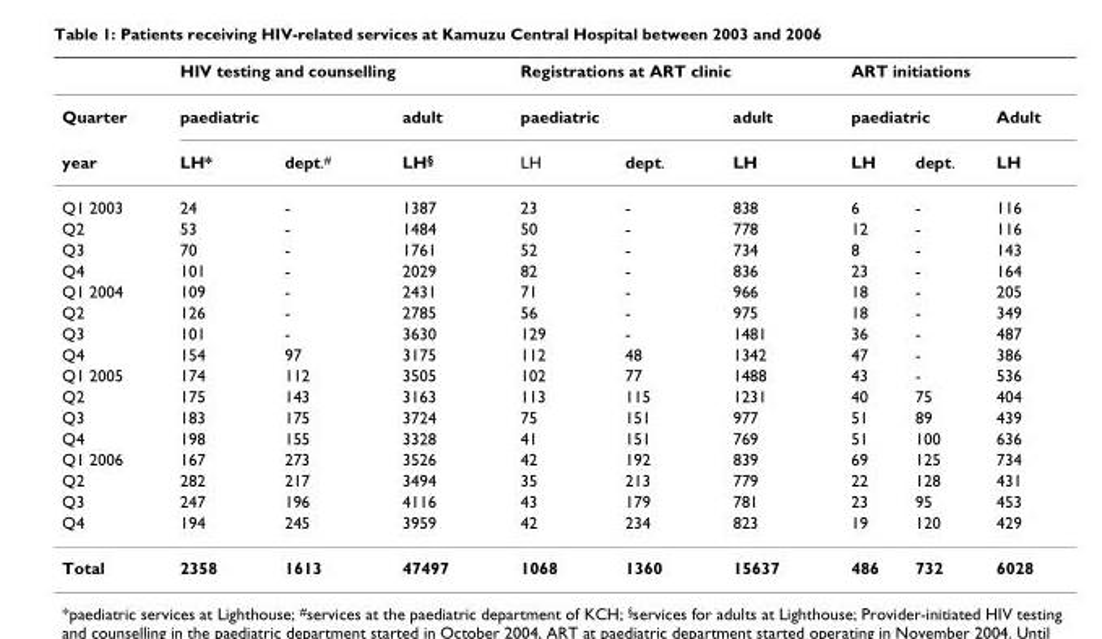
<table><thead><tr><td rowspan="3">Quarter year</td><td colspan="3">HIV testing and counselling</td><td colspan="3">Registrations at ART clinic</td><td colspan="3">ART initiations</td></tr><tr><td colspan="2">paediatric</td><td rowspan="2">adult LH§</td><td colspan="2">paediatric</td><td rowspan="2">adult LH</td><td colspan="2">paediatric</td><td rowspan="2">Adult LH</td></tr><tr><td>LH*</td><td>dept.#</td><td>LH</td><td>dept.</td><td>LH</td><td>dept.</td></tr></thead><tbody><tr><td>Q1 2003</td><td>24</td><td>-</td><td>1387</td><td>23</td><td>-</td><td>838</td><td>6</td><td>-</td><td>116</td></tr><tr><td>Q2</td><td>53</td><td>-</td><td>1484</td><td>50</td><td>-</td><td>778</td><td>12</td><td>-</td><td>116</td></tr><tr><td>Q3</td><td>70</td><td>-</td><td>1761</td><td>52</td><td>-</td><td>734</td><td>8</td><td>-</td><td>143</td></tr><tr><td>Q4</td><td>101</td><td>-</td><td>2029</td><td>82</td><td>-</td><td>836</td><td>23</td><td>-</td><td>164</td></tr><tr><td>Q1 2004</td><td>109</td><td>-</td><td>2431</td><td>71</td><td>-</td><td>966</td><td>18</td><td>-</td><td>205</td></tr><tr><td>Q2</td><td>126</td><td>-</td><td>2785</td><td>56</td><td>-</td><td>975</td><td>18</td><td>-</td><td>349</td></tr><tr><td>Q3</td><td>101</td><td>-</td><td>3630</td><td>129</td><td>-</td><td>1481</td><td>36</td><td>-</td><td>487</td></tr><tr><td>Q4</td><td>154</td><td>97</td><td>3175</td><td>112</td><td>48</td><td>1342</td><td>47</td><td>-</td><td>386</td></tr><tr><td>Q1 2005</td><td>174</td><td>112</td><td>3505</td><td>102</td><td>77</td><td>1488</td><td>43</td><td>-</td><td>536</td></tr><tr><td>Q2</td><td>175</td><td>143</td><td>3163</td><td>113</td><td>115</td><td>1231</td><td>40</td><td>75</td><td>404</td></tr><tr><td>Q3</td><td>183</td><td>175</td><td>3724</td><td>75</td><td>151</td><td>977</td><td>51</td><td>89</td><td>439</td></tr><tr><td>Q4</td><td>198</td><td>155</td><td>3328</td><td>41</td><td>151</td><td>769</td><td>51</td><td>100</td><td>636</td></tr><tr><td>Q1 2006</td><td>167</td><td>273</td><td>3526</td><td>42</td><td>192</td><td>839</td><td>69</td><td>125</td><td>734</td></tr><tr><td>Q2</td><td>282</td><td>217</td><td>3494</td><td>35</td><td>213</td><td>779</td><td>22</td><td>128</td><td>431</td></tr><tr><td>Q3</td><td>247</td><td>196</td><td>4116</td><td>43</td><td>179</td><td>781</td><td>23</td><td>95</td><td>453</td></tr><tr><td>Q4</td><td>194</td><td>245</td><td>3959</td><td>42</td><td>234</td><td>823</td><td>19</td><td>120</td><td>429</td></tr><tr><td>Total</td><td>2358</td><td>1613</td><td>47497</td><td>1068</td><td>1360</td><td>15637</td><td>486</td><td>732</td><td>6028</td></tr></tbody></table>